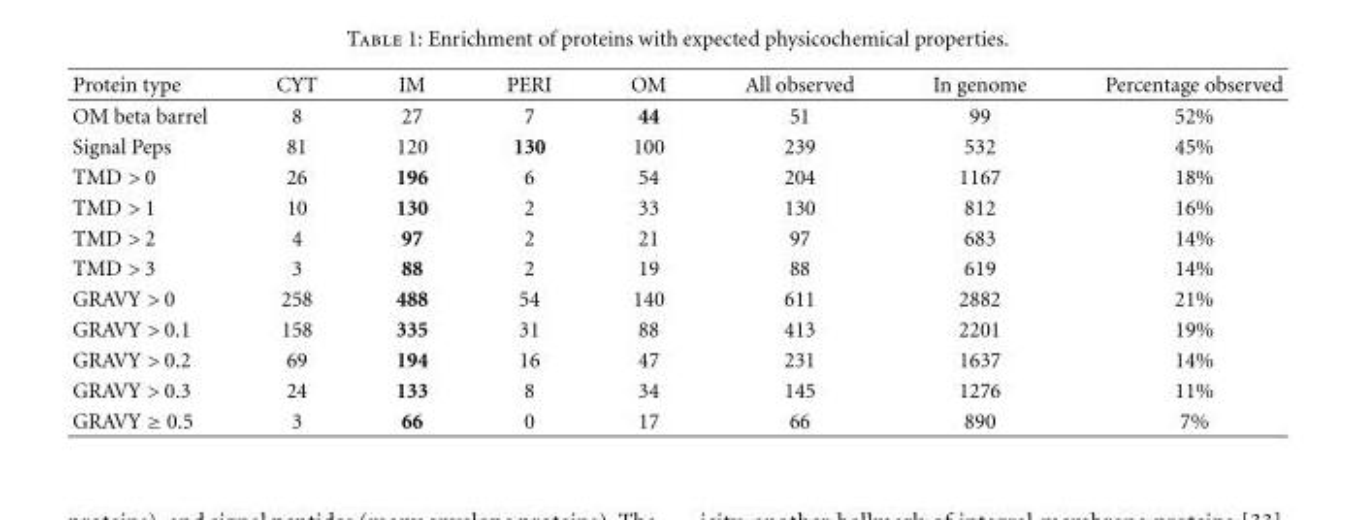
<table><thead><tr><td>Protein type</td><td>CYT</td><td>IM</td><td>PERI</td><td>OM</td><td>All observed</td><td>In genome</td><td>Percentage observed</td></tr></thead><tbody><tr><td>OM beta barrel</td><td>8</td><td>27</td><td>7</td><td>44</td><td>51</td><td>99</td><td>52%</td></tr><tr><td>Signal Peps</td><td>81</td><td>120</td><td>130</td><td>100</td><td>239</td><td>532</td><td>45%</td></tr><tr><td>TMD &gt; 0</td><td>26</td><td>196</td><td>6</td><td>54</td><td>204</td><td>1167</td><td>18%</td></tr><tr><td>TMD &gt; 1</td><td>10</td><td>130</td><td>2</td><td>33</td><td>130</td><td>812</td><td>16%</td></tr><tr><td>TMD &gt; 2</td><td>4</td><td>97</td><td>2</td><td>21</td><td>97</td><td>683</td><td>14%</td></tr><tr><td>TMD &gt; 3</td><td>3</td><td>88</td><td>2</td><td>19</td><td>88</td><td>619</td><td>14%</td></tr><tr><td>GRAVY &gt; 0</td><td>258</td><td>488</td><td>54</td><td>140</td><td>611</td><td>2882</td><td>21%</td></tr><tr><td>GRAVY &gt; 0.1</td><td>158</td><td>335</td><td>31</td><td>88</td><td>413</td><td>2201</td><td>19%</td></tr><tr><td>GRAVY &gt; 0.2</td><td>69</td><td>194</td><td>16</td><td>47</td><td>231</td><td>1637</td><td>14%</td></tr><tr><td>GRAVY &gt; 0.3</td><td>24</td><td>133</td><td>8</td><td>34</td><td>145</td><td>1276</td><td>11%</td></tr><tr><td>GRAVY ≥ 0.5</td><td>3</td><td>66</td><td>0</td><td>17</td><td>66</td><td>890</td><td>7%</td></tr></tbody></table>